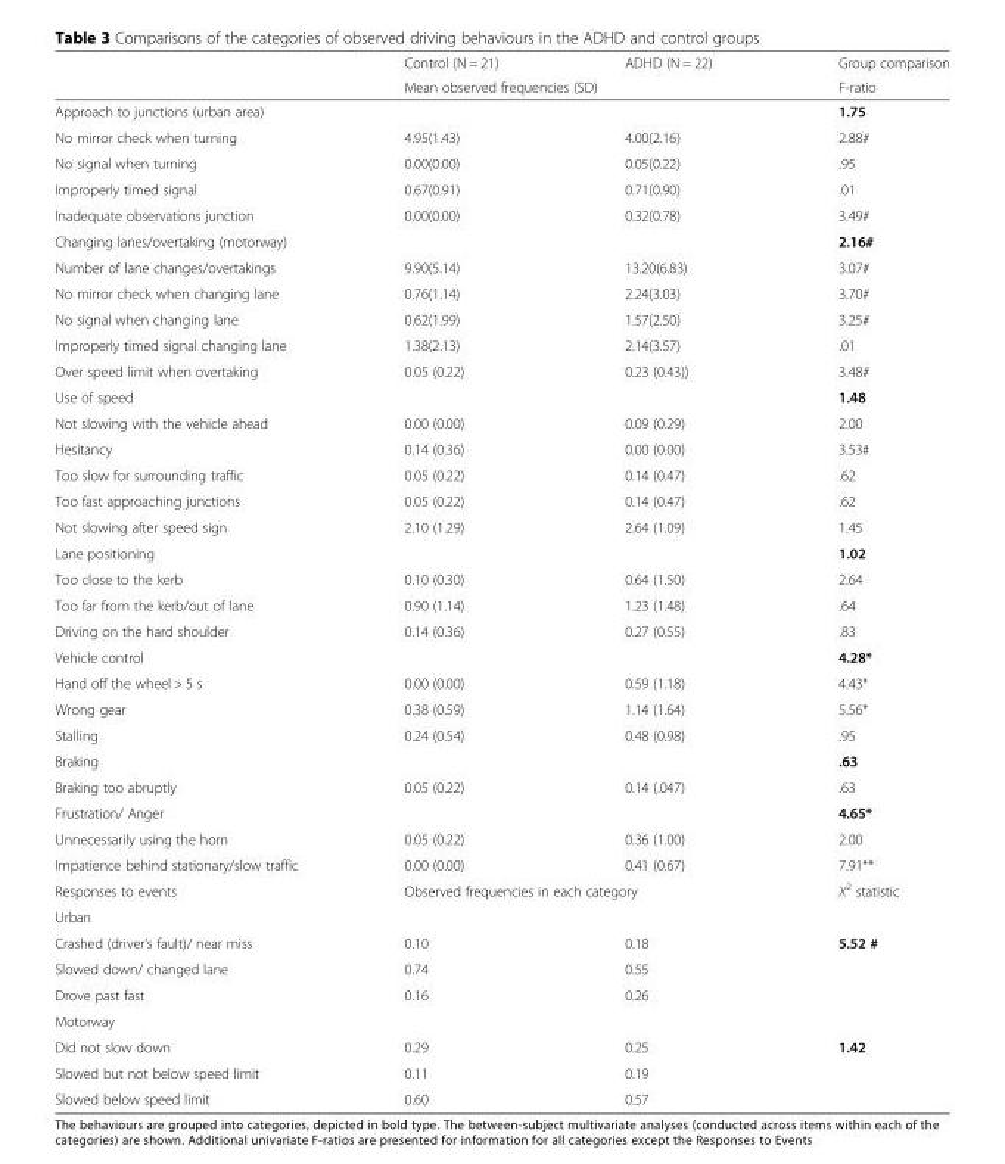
<table><thead><tr><td rowspan="2"></td><td>Control (N = 21)</td><td>ADHD (N = 22)</td><td rowspan="2">Group comparison F-ratio</td></tr><tr><td colspan="2">Mean observed frequencies (SD)</td></tr></thead><tbody><tr><td colspan="3">Approach to junctions (urban area)</td><td>1.75</td></tr><tr><td>No mirror check when turning</td><td>4.95(1.43)</td><td>4.00(2.16)</td><td>2.88#</td></tr><tr><td>No signal when turning</td><td>0.00(0.00)</td><td>0.05(0.22)</td><td>.95</td></tr><tr><td>Improperly timed signal</td><td>0.67(0.91)</td><td>0.71(0.90)</td><td>.01</td></tr><tr><td>Inadequate observations junction</td><td>0.00(0.00)</td><td>0.32(0.78)</td><td>3.49#</td></tr><tr><td colspan="3">Changing lanes/overtaking (motorway)</td><td>2.16#</td></tr><tr><td>Number of lane changes/overtakings</td><td>9.90(5.14)</td><td>13.20(6.83)</td><td>3.07#</td></tr><tr><td>No mirror check when changing lane</td><td>0.76(1.14)</td><td>2.24(3.03)</td><td>3.70#</td></tr><tr><td>No signal when changing lane</td><td>0.62(1.99)</td><td>1.57(2.50)</td><td>3.25#</td></tr><tr><td>Improperly timed signal changing lane</td><td>1.38(2.13)</td><td>2.14(3.57)</td><td>.01</td></tr><tr><td>Over speed limit when overtaking</td><td>0.05 (0.22)</td><td>0.23 (0.43))</td><td>3.48#</td></tr><tr><td colspan="3">Use of speed</td><td>1.48</td></tr><tr><td>Not slowing with the vehicle ahead</td><td>0.00 (0.00)</td><td>0.09 (0.29)</td><td>2.00</td></tr><tr><td>Hesitancy</td><td>0.14 (0.36)</td><td>0.00 (0.00)</td><td>3.53#</td></tr><tr><td>Too slow for surrounding traffic</td><td>0.05 (0.22)</td><td>0.14 (0.47)</td><td>.62</td></tr><tr><td>Too fast approaching junctions</td><td>0.05 (0.22)</td><td>0.14 (0.47)</td><td>.62</td></tr><tr><td>Not slowing after speed sign</td><td>2.10 (1.29)</td><td>2.64 (1.09)</td><td>1.45</td></tr><tr><td colspan="3">Lane positioning</td><td>1.02</td></tr><tr><td>Too close to the kerb</td><td>0.10 (0.30)</td><td>0.64 (1.50)</td><td>2.64</td></tr><tr><td>Too far from the kerb/out of lane</td><td>0.90 (1.14)</td><td>1.23 (1.48)</td><td>.64</td></tr><tr><td>Driving on the hard shoulder</td><td>0.14 (0.36)</td><td>0.27 (0.55)</td><td>.83</td></tr><tr><td colspan="3">Vehicle control</td><td>4.28*</td></tr><tr><td>Hand off the wheel &gt; 5 s</td><td>0.00 (0.00)</td><td>0.59 (1.18)</td><td>4.43*</td></tr><tr><td>Wrong gear</td><td>0.38 (0.59)</td><td>1.14 (1.64)</td><td>5.56*</td></tr><tr><td>Stalling</td><td>0.24 (0.54)</td><td>0.48 (0.98)</td><td>.95</td></tr><tr><td colspan="3">Braking</td><td>.63</td></tr><tr><td>Braking too abruptly</td><td>0.05 (0.22)</td><td>0.14 (.047)</td><td>.63</td></tr><tr><td colspan="3">Frustration/ Anger</td><td>4.65*</td></tr><tr><td>Unnecessarily using the horn</td><td>0.05 (0.22)</td><td>0.36 (1.00)</td><td>2.00</td></tr><tr><td>Impatience behind stationary/slow traffic</td><td>0.00 (0.00)</td><td>0.41 (0.67)</td><td>7.91**</td></tr><tr><td>Responses to events</td><td colspan="2">Observed frequencies in each category</td><td>Χ<sup>2</sup> statistic</td></tr><tr><td colspan="4">Urban</td></tr><tr><td>Crashed (driver’s fault)/ near miss</td><td>0.10</td><td>0.18</td><td rowspan="3">5.52 #</td></tr><tr><td>Slowed down/ changed lane</td><td>0.74</td><td>0.55</td></tr><tr><td>Drove past fast</td><td>0.16</td><td>0.26</td></tr><tr><td colspan="4">Motorway</td></tr><tr><td>Did not slow down</td><td>0.29</td><td>0.25</td><td rowspan="3">1.42</td></tr><tr><td>Slowed but not below speed limit</td><td>0.11</td><td>0.19</td></tr><tr><td>Slowed below speed limit</td><td>0.60</td><td>0.57</td></tr></tbody></table>